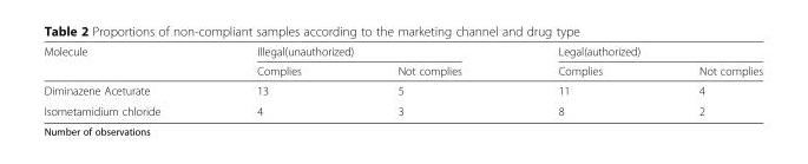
<table><thead><tr><td rowspan="2">Molecule</td><td colspan="2">Illegal(unauthorized)</td><td colspan="2">Legal(authorized)</td></tr><tr><td>Complies</td><td>Not complies</td><td>Complies</td><td>Not complies</td></tr></thead><tbody><tr><td>Diminazene Aceturate</td><td>13</td><td>5</td><td>11</td><td>4</td></tr><tr><td>Isometamidium chloride</td><td>4</td><td>3</td><td>8</td><td>2</td></tr></tbody></table>